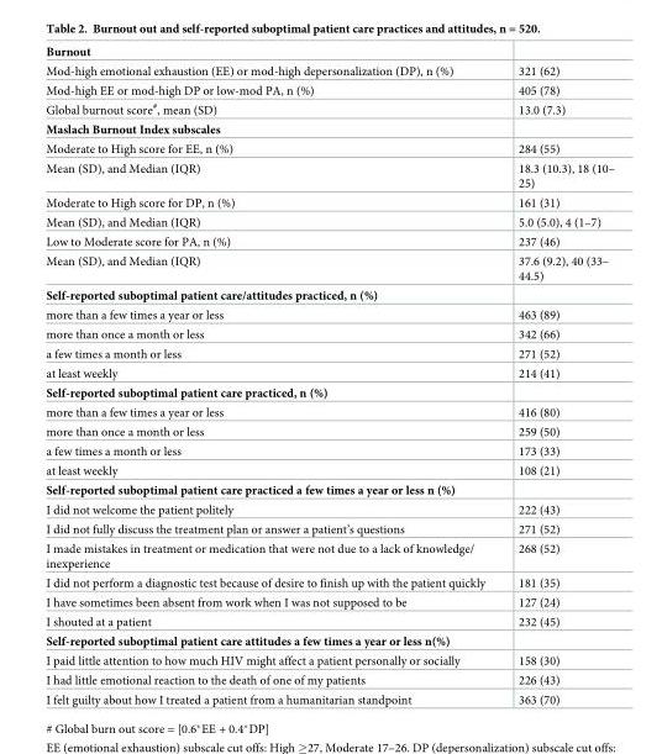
<table><tbody><tr><td colspan="2">Burnout</td></tr><tr><td>Mod-high emotional exhaustion (EE) or mod-high depersonalization (DP), n (%)</td><td>321 (62)</td></tr><tr><td>Mod-high EE or mod-high DP or low-mod PA, n (%)</td><td>405 (78)</td></tr><tr><td>Global burnout score<sup>#</sup>, mean (SD)</td><td>13.0 (7.3)</td></tr><tr><td colspan="2">Maslach Burnout Index subscales</td></tr><tr><td>Moderate to High score for EE, n (%)</td><td>284 (55)</td></tr><tr><td>Mean (SD), and Median (IQR)</td><td>18.3 (10.3), 18 (10– 25)</td></tr><tr><td>Moderate to High score for DP, n (%)</td><td>161 (31)</td></tr><tr><td>Mean (SD), and Median (IQR)</td><td>5.0 (5.0), 4 (1–7)</td></tr><tr><td>Low to Moderate score for PA, n (%)</td><td>237 (46)</td></tr><tr><td>Mean (SD), and Median (IQR)</td><td>37.6 (9.2), 40 (33– 44.5)</td></tr><tr><td colspan="2">Self-reported suboptimal patient care/attitudes practiced, n (%)</td></tr><tr><td>more than a few times a year or less</td><td>463 (89)</td></tr><tr><td>more than once a month or less</td><td>342 (66)</td></tr><tr><td>a few times a month or less</td><td>271 (52)</td></tr><tr><td>at least weekly</td><td>214 (41)</td></tr><tr><td colspan="2">Self-reported suboptimal patient care practiced, n (%)</td></tr><tr><td>more than a few times a year or less</td><td>416 (80)</td></tr><tr><td>more than once a month or less</td><td>259 (50)</td></tr><tr><td>a few times a month or less</td><td>173 (33)</td></tr><tr><td>at least weekly</td><td>108 (21)</td></tr><tr><td colspan="2">Self-reported suboptimal patient care practiced a few times a year or less n (%)</td></tr><tr><td>I did not welcome the patient politely</td><td>222 (43)</td></tr><tr><td>I did not fully discuss the treatment plan or answer a patient’s questions</td><td>271 (52)</td></tr><tr><td>I made mistakes in treatment or medication that were not due to a lack of knowledge/ inexperience</td><td>268 (52)</td></tr><tr><td>I did not perform a diagnostic test because of desire to finish up with the patient quickly</td><td>181 (35)</td></tr><tr><td>I have sometimes been absent from work when I was not supposed to be</td><td>127 (24)</td></tr><tr><td>I shouted at a patient</td><td>232 (45)</td></tr><tr><td colspan="2">Self-reported suboptimal patient care attitudes a few times a year or less n(%)</td></tr><tr><td>I paid little attention to how much HIV might affect a patient personally or socially</td><td>158 (30)</td></tr><tr><td>I had little emotional reaction to the death of one of my patients</td><td>226 (43)</td></tr><tr><td>I felt guilty about how I treated a patient from a humanitarian standpoint</td><td>363 (70)</td></tr></tbody></table>